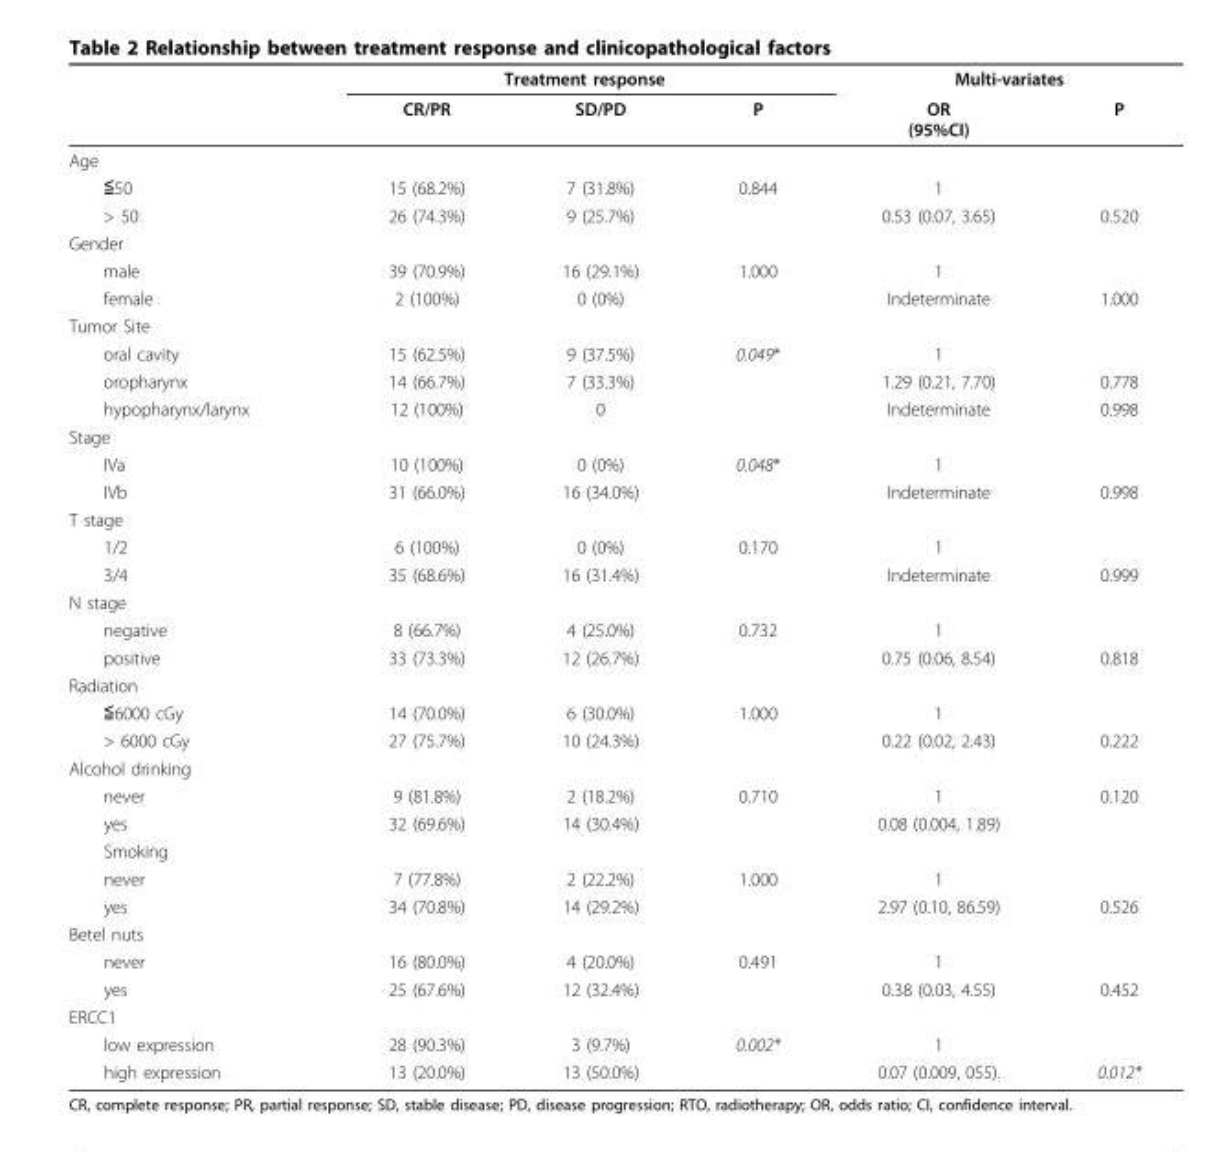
<table><thead><tr><td rowspan="2"></td><td colspan="3">Treatment response</td><td colspan="2">Multi-variates</td></tr><tr><td>CR/PR</td><td>SD/PD</td><td>P</td><td>OR (95%CI)</td><td>P</td></tr></thead><tbody><tr><td colspan="6">Age</td></tr><tr><td>≦50</td><td>15 (68.2%)</td><td>7 (31.8%)</td><td>0.844</td><td>1</td><td></td></tr><tr><td>&gt; 50</td><td>26 (74.3%)</td><td>9 (25.7%)</td><td></td><td>0.53 (0.07, 3.65)</td><td>0.520</td></tr><tr><td colspan="6">Gender</td></tr><tr><td>male</td><td>39 (70.9%)</td><td>16 (29.1%)</td><td>1.000</td><td>1</td><td></td></tr><tr><td>female</td><td>2 (100%)</td><td>0 (0%)</td><td></td><td>Indeterminate</td><td>1.000</td></tr><tr><td colspan="6">Tumor Site</td></tr><tr><td>oral cavity</td><td>15 (62.5%)</td><td>9 (37.5%)</td><td>0.049*</td><td>1</td><td></td></tr><tr><td>oropharynx</td><td>14 (66.7%)</td><td>7 (33.3%)</td><td></td><td>1.29 (0.21, 7.70)</td><td>0.778</td></tr><tr><td>hypopharynx/larynx</td><td>12 (100%)</td><td>0</td><td></td><td>Indeterminate</td><td>0.998</td></tr><tr><td colspan="6">Stage</td></tr><tr><td>IVa</td><td>10 (100%)</td><td>0 (0%)</td><td>0.048*</td><td>1</td><td></td></tr><tr><td>IVb</td><td>31 (66.0%)</td><td>16 (34.0%)</td><td></td><td>Indeterminate</td><td>0.998</td></tr><tr><td colspan="6">T stage</td></tr><tr><td>1/2</td><td>6 (100%)</td><td>0 (0%)</td><td>0.170</td><td>1</td><td></td></tr><tr><td>3/4</td><td>35 (68.6%)</td><td>16 (31.4%)</td><td></td><td>Indeterminate</td><td>0.999</td></tr><tr><td colspan="6">N stage</td></tr><tr><td>negative</td><td>8 (66.7%)</td><td>4 (25.0%)</td><td>0.732</td><td>1</td><td></td></tr><tr><td>positive</td><td>33 (73.3%)</td><td>12 (26.7%)</td><td></td><td>0.75 (0.06, 8.54)</td><td>0.818</td></tr><tr><td colspan="6">Radiation</td></tr><tr><td>≦6000 cGy</td><td>14 (70.0%)</td><td>6 (30.0%)</td><td>1.000</td><td>1</td><td></td></tr><tr><td>&gt; 6000 cGy</td><td>27 (75.7%)</td><td>10 (24.3%)</td><td></td><td>0.22 (0.02, 2.43)</td><td>0.222</td></tr><tr><td colspan="6">Alcohol drinking</td></tr><tr><td>never</td><td>9 (81.8%)</td><td>2 (18.2%)</td><td>0.710</td><td>1</td><td>0.120</td></tr><tr><td>yes</td><td>32 (69.6%)</td><td>14 (30.4%)</td><td></td><td>0.08 (0.004, 1.89)</td><td></td></tr><tr><td colspan="6">Smoking</td></tr><tr><td>never</td><td>7 (77.8%)</td><td>2 (22.2%)</td><td>1.000</td><td>1</td><td></td></tr><tr><td>yes</td><td>34 (70.8%)</td><td>14 (29.2%)</td><td></td><td>2.97 (0.10, 86.59)</td><td>0.526</td></tr><tr><td colspan="6">Betel nuts</td></tr><tr><td>never</td><td>16 (80.0%)</td><td>4 (20.0%)</td><td>0.491</td><td>1</td><td></td></tr><tr><td>yes</td><td>25 (67.6%)</td><td>12 (32.4%)</td><td></td><td>0.38 (0.03, 4.55)</td><td>0.452</td></tr><tr><td colspan="6">ERCC1</td></tr><tr><td>low expression</td><td>28 (90.3%)</td><td>3 (9.7%)</td><td>0.002*</td><td>1</td><td></td></tr><tr><td>high expression</td><td>13 (20.0%)</td><td>13 (50.0%)</td><td></td><td>0.07 (0.009, 055).</td><td>0.012*</td></tr></tbody></table>